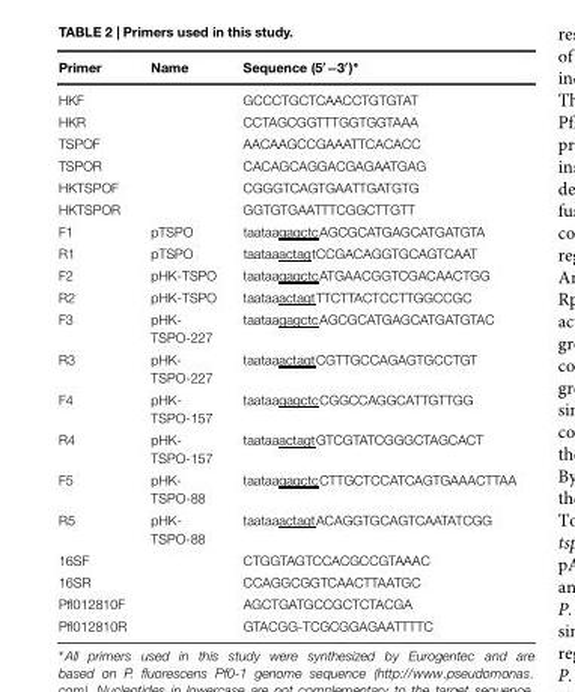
<table><thead><tr><td>Primer</td><td>Name</td><td>Sequence (5′−3′)∗</td></tr></thead><tbody><tr><td>HKF</td><td></td><td>GCCCTGCTCAACCTGTGTAT</td></tr><tr><td>HKR</td><td></td><td>CCTAGCGGTTTGGTGGTAAA</td></tr><tr><td>TSPOF</td><td></td><td>AACAAGCCGAAATTCACACC</td></tr><tr><td>TSPOR</td><td></td><td>CACAGCAGGACGAGAATGAG</td></tr><tr><td>HKTSPOF</td><td></td><td>CGGGTCAGTGAATTGATGTG</td></tr><tr><td>HKTSPOR</td><td></td><td>GGTGTGAATTTCGGCTTGTT</td></tr><tr><td>F1</td><td>pTSPO</td><td>taataagagctcAGCGCATGAGCATGATGTA</td></tr><tr><td>R1</td><td>pTSPO</td><td>taataaactagtCCGACAGGTGCAGTCAAT</td></tr><tr><td>F2</td><td>pHK-TSPO</td><td>taataagagctcATGAACGGTCGACAACTGG</td></tr><tr><td>R2</td><td>pHK-TSPO</td><td>taataaactagtTTCTTACTCCTTGGCCGC</td></tr><tr><td>F3</td><td>pHK- TSPO-227</td><td>taataagagctcAGCGCATGAGCATGATGTAC</td></tr><tr><td>R3</td><td>pHK- TSPO-227</td><td>taataaactagtCGTTGCCAGAGTGCCTGT</td></tr><tr><td>F4</td><td>pHK- TSPO-157</td><td>taataagagctcCGGCCAGGCATTGTTGG</td></tr><tr><td>R4</td><td>pHK- TSPO-157</td><td>taataaactagtGTCGTATCGGGCTAGCACT</td></tr><tr><td>F5</td><td>pHK- TSPO-88</td><td>taataagagctcCTTGCTCCATCAGTGAAACTTAA</td></tr><tr><td>R5</td><td>pHK- TSPO-88</td><td>taataaactagtACAGGTGCAGTCAATATCGG</td></tr><tr><td>16SF</td><td></td><td>CTGGTAGTCCACGCCGTAAAC</td></tr><tr><td>16SR</td><td></td><td>CCAGGCGGTCAACTTAATGC</td></tr><tr><td>Pfl012810F</td><td></td><td>AGCTGATGCCGCTCTACGA</td></tr><tr><td>Pfl012810R</td><td></td><td>GTACGG-TCGCGGAGAATTTTC</td></tr></tbody></table>